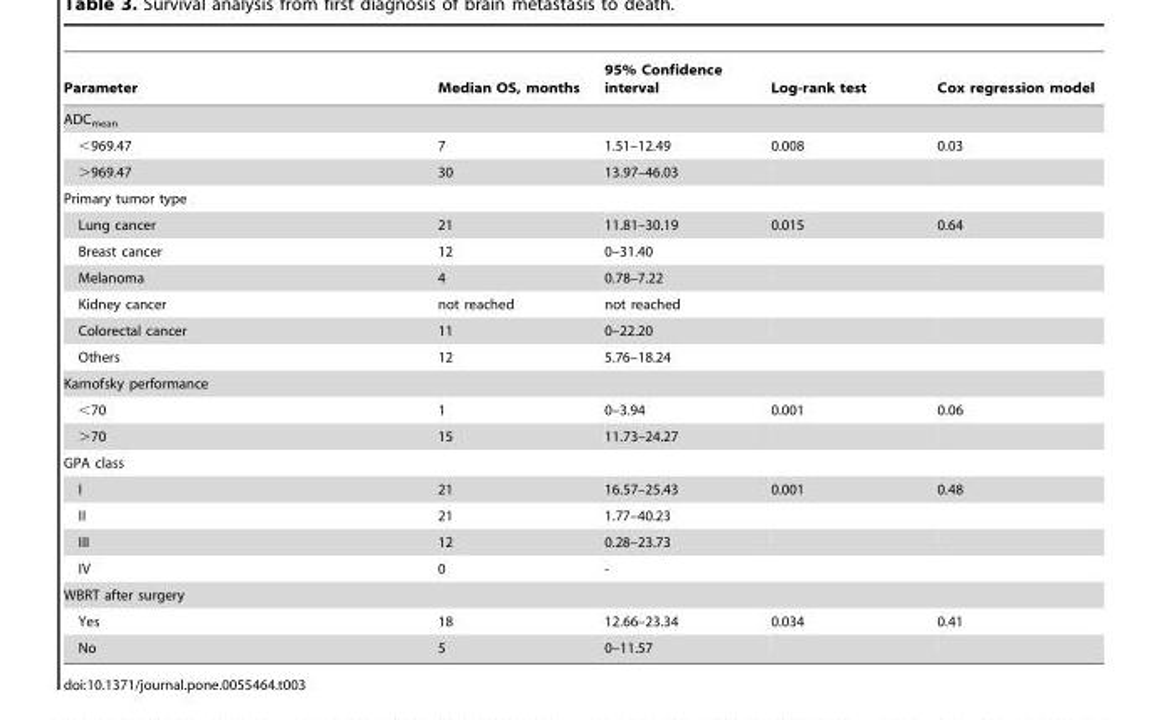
<table><thead><tr><td>Parameter</td><td>Median OS, months</td><td>95% Confidence interval</td><td>Log-rank test</td><td>Cox regression model</td></tr></thead><tbody><tr><td colspan="5">ADC<sub>mean</sub></td></tr><tr><td>&lt;969.47</td><td>7</td><td>1.51–12.49</td><td>0.008</td><td>0.03</td></tr><tr><td>&gt;969.47</td><td>30</td><td>13.97–46.03</td><td></td><td></td></tr><tr><td colspan="5">Primary tumor type</td></tr><tr><td>Lung cancer</td><td>21</td><td>11.81–30.19</td><td>0.015</td><td>0.64</td></tr><tr><td>Breast cancer</td><td>12</td><td>0–31.40</td><td></td><td></td></tr><tr><td>Melanoma</td><td>4</td><td>0.78–7.22</td><td></td><td></td></tr><tr><td>Kidney cancer</td><td>not reached</td><td>not reached</td><td></td><td></td></tr><tr><td>Colorectal cancer</td><td>11</td><td>0–22.20</td><td></td><td></td></tr><tr><td>Others</td><td>12</td><td>5.76–18.24</td><td></td><td></td></tr><tr><td colspan="5">Karnofsky performance</td></tr><tr><td>&lt;70</td><td>1</td><td>0–3.94</td><td>0.001</td><td>0.06</td></tr><tr><td>&gt;70</td><td>15</td><td>11.73–24.27</td><td></td><td></td></tr><tr><td colspan="5">GPA class</td></tr><tr><td>I</td><td>21</td><td>16.57–25.43</td><td>0.001</td><td>0.48</td></tr><tr><td>II</td><td>21</td><td>1.77–40.23</td><td></td><td></td></tr><tr><td>III</td><td>12</td><td>0.28–23.73</td><td></td><td></td></tr><tr><td>IV</td><td>0</td><td>-</td><td></td><td></td></tr><tr><td colspan="5">WBRT after surgery</td></tr><tr><td>Yes</td><td>18</td><td>12.66–23.34</td><td>0.034</td><td>0.41</td></tr><tr><td>No</td><td>5</td><td>0–11.57</td><td></td><td></td></tr></tbody></table>